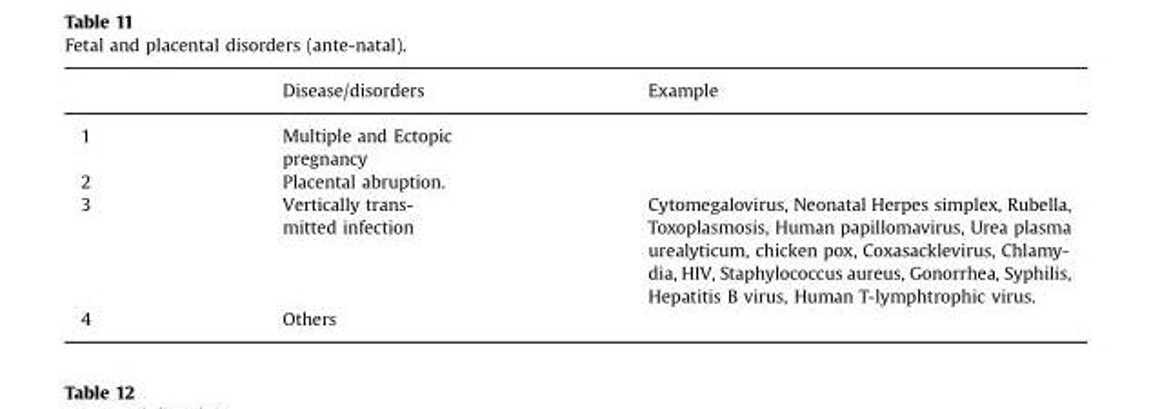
<table><thead><tr><td></td><td>Disease/disorders</td><td>Example</td></tr></thead><tbody><tr><td>1</td><td>Multiple and Ectopic pregnancy</td><td></td></tr><tr><td>2</td><td>Placental abruption.</td><td></td></tr><tr><td>3</td><td>Vertically trans- mitted infection</td><td>Cytomegalovirus, Neonatal Herpes simplex, Rubella, Toxoplasmosis, Human papillomavirus, Urea plasma urealyticum, chicken pox, Coxasacklevirus, Chlamy- dia, HIV, Staphylococcus aureus, Gonorrhea, Syphilis, Hepatitis B virus, Human T-lymphtrophic virus.</td></tr><tr><td>4</td><td>Others</td><td></td></tr></tbody></table>